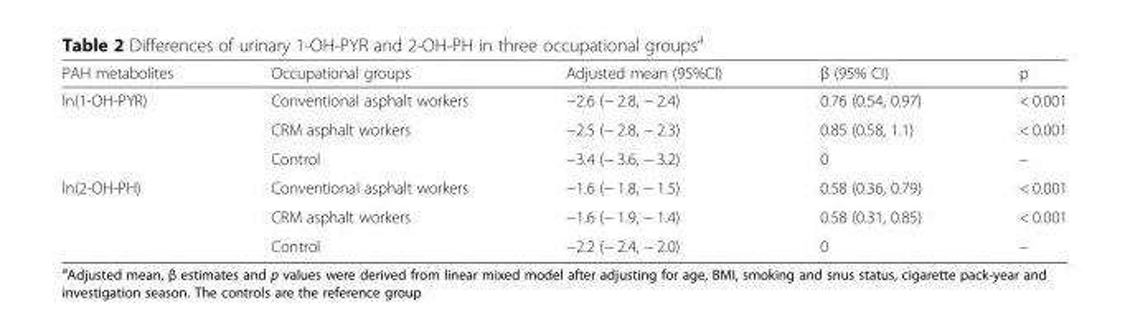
<table><thead><tr><td>PAH metabolites</td><td>Occupational groups</td><td>Adjusted mean (95%CI)</td><td>β (95% CI)</td><td>p</td></tr></thead><tbody><tr><td rowspan="3">ln(1-OH-PYR)</td><td>Conventional asphalt workers</td><td>−2.6 (− 2.8, − 2.4)</td><td>0.76 (0.54, 0.97)</td><td>&lt; 0.001</td></tr><tr><td>CRM asphalt workers</td><td>−2.5 (− 2.8, − 2.3)</td><td>0.85 (0.58, 1.1)</td><td>&lt; 0.001</td></tr><tr><td>Control</td><td>−3.4 (− 3.6, − 3.2)</td><td>0</td><td>–</td></tr><tr><td rowspan="3">ln(2-OH-PH)</td><td>Conventional asphalt workers</td><td>−1.6 (− 1.8, − 1.5)</td><td>0.58 (0.36, 0.79)</td><td>&lt; 0.001</td></tr><tr><td>CRM asphalt workers</td><td>−1.6 (− 1.9, − 1.4)</td><td>0.58 (0.31, 0.85)</td><td>&lt; 0.001</td></tr><tr><td>Control</td><td>−2.2 (− 2.4, − 2.0)</td><td>0</td><td>–</td></tr></tbody></table>